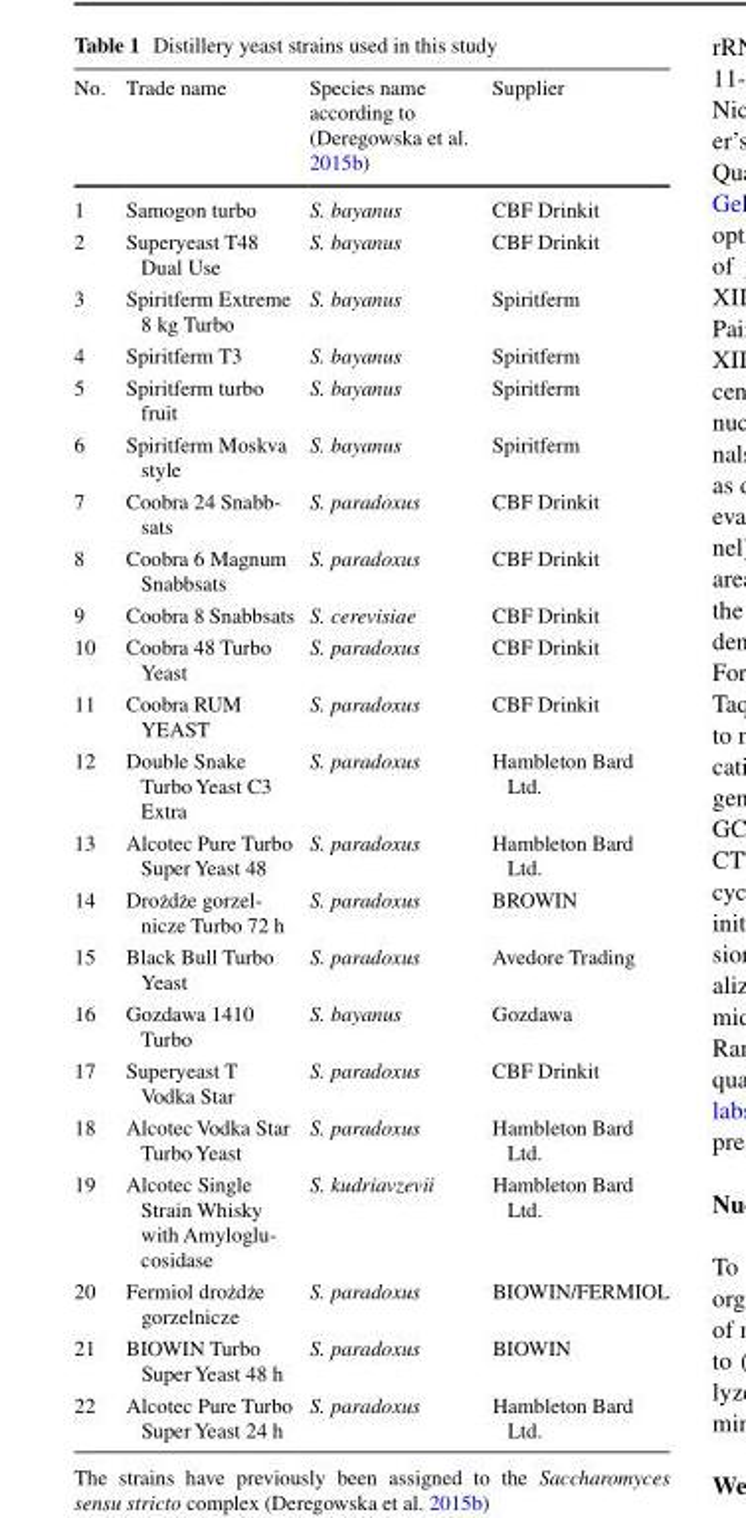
<table><thead><tr><td>No.</td><td>Trade name</td><td>Species name according to (Deregowska et al. 2015b)</td><td>Supplier</td></tr></thead><tbody><tr><td>1</td><td>Samogon turbo</td><td>S. bayanus</td><td>CBF Drinkit</td></tr><tr><td>2</td><td>Superyeast T48 Dual Use</td><td>S. bayanus</td><td>CBF Drinkit</td></tr><tr><td>3</td><td>Spiritferm Extreme 8 kg Turbo</td><td>S. bayanus</td><td>Spiritferm</td></tr><tr><td>4</td><td>Spiritferm T3</td><td>S. bayanus</td><td>Spiritferm</td></tr><tr><td>5</td><td>Spiritferm turbo fruit</td><td>S. bayanus</td><td>Spiritferm</td></tr><tr><td>6</td><td>Spiritferm Moskva style</td><td>S. bayanus</td><td>Spiritferm</td></tr><tr><td>7</td><td>Coobra 24 Snabb- sats</td><td>S. paradoxus</td><td>CBF Drinkit</td></tr><tr><td>8</td><td>Coobra 6 Magnum Snabbsats</td><td>S. paradoxus</td><td>CBF Drinkit</td></tr><tr><td>9</td><td>Coobra 8 Snabbsats</td><td>S. cerevisiae</td><td>CBF Drinkit</td></tr><tr><td>10</td><td>Coobra 48 Turbo Yeast</td><td>S. paradoxus</td><td>CBF Drinkit</td></tr><tr><td>11</td><td>Coobra RUM YEAST</td><td>S. paradoxus</td><td>CBF Drinkit</td></tr><tr><td>12</td><td>Double Snake Turbo Yeast C3 Extra</td><td>S. paradoxus</td><td>Hambleton Bard Ltd.</td></tr><tr><td>13</td><td>Alcotec Pure Turbo Super Yeast 48</td><td>S. paradoxus</td><td>Hambleton Bard Ltd.</td></tr><tr><td>14</td><td>Droz˙dz˙e gorzel- nicze Turbo 72 h</td><td>S. paradoxus</td><td>BROWIN</td></tr><tr><td>15</td><td>Black Bull Turbo Yeast</td><td>S. paradoxus</td><td>Avedore Trading</td></tr><tr><td>16</td><td>Gozdawa 1410 Turbo</td><td>S. bayanus</td><td>Gozdawa</td></tr><tr><td>17</td><td>Superyeast T Vodka Star</td><td>S. paradoxus</td><td>CBF Drinkit</td></tr><tr><td>18</td><td>Alcotec Vodka Star Turbo Yeast</td><td>S. paradoxus</td><td>Hambleton Bard Ltd.</td></tr><tr><td>19</td><td>Alcotec Single Strain Whisky with Amyloglu- cosidase</td><td>S. kudriavzevii</td><td>Hambleton Bard Ltd.</td></tr><tr><td>20</td><td>Fermiol droz˙dz˙e gorzelnicze</td><td>S. paradoxus</td><td>BIOWIN/FERMIOL</td></tr><tr><td>21</td><td>BIOWIN Turbo Super Yeast 48 h</td><td>S. paradoxus</td><td>BIOWIN</td></tr><tr><td>22</td><td>Alcotec Pure Turbo Super Yeast 24 h</td><td>S. paradoxus</td><td>Hambleton Bard Ltd.</td></tr></tbody></table>